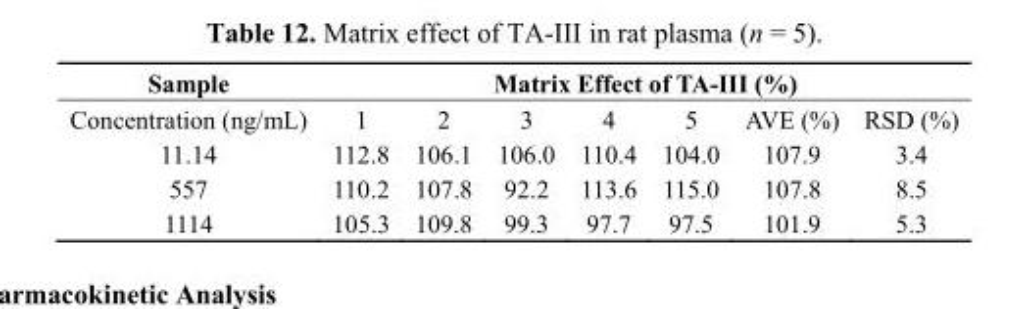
<table><thead><tr><td rowspan="2">Sample Concentration (ng/mL)</td><td colspan="7">Matrix Effect of TA-III (%)</td></tr><tr><td>1</td><td>2</td><td>3</td><td>4</td><td>5</td><td>AVE (%)</td><td>RSD (%)</td></tr></thead><tbody><tr><td>11.14</td><td>112.8</td><td>106.1</td><td>106.0</td><td>110.4</td><td>104.0</td><td>107.9</td><td>3.4</td></tr><tr><td>557</td><td>110.2</td><td>107.8</td><td>92.2</td><td>113.6</td><td>115.0</td><td>107.8</td><td>8.5</td></tr><tr><td>1114</td><td>105.3</td><td>109.8</td><td>99.3</td><td>97.7</td><td>97.5</td><td>101.9</td><td>5.3</td></tr></tbody></table>